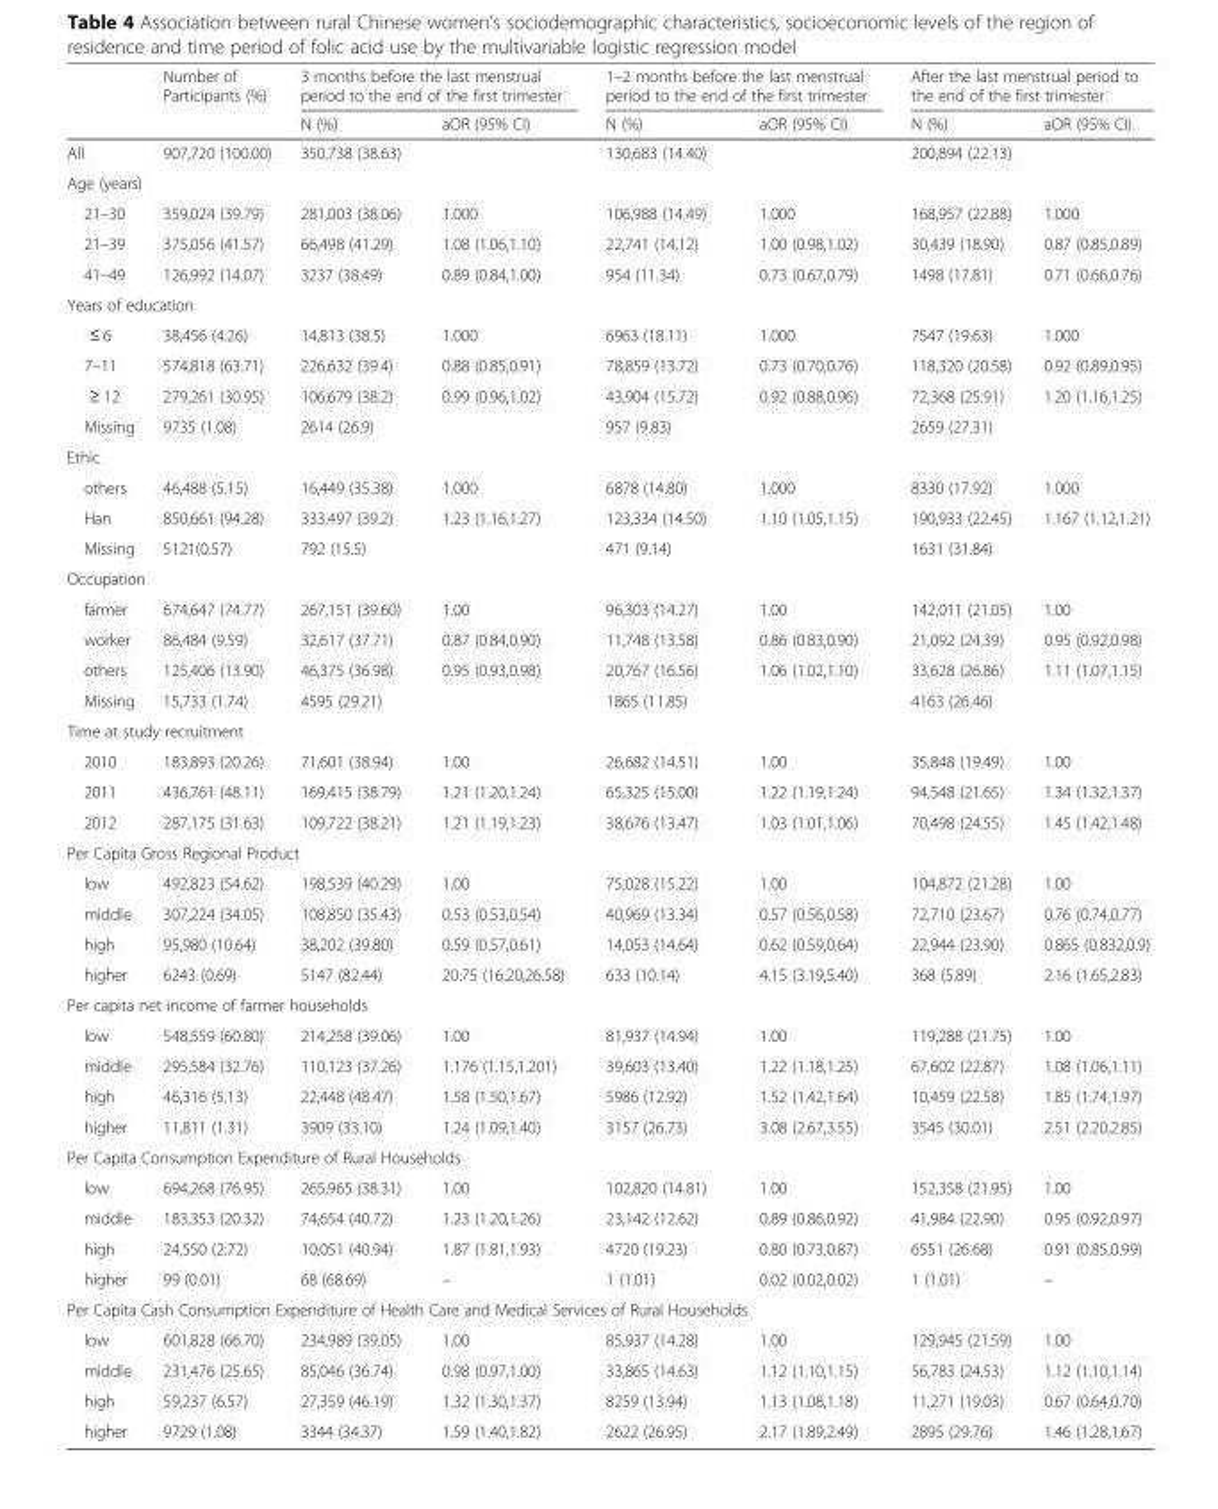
<table><thead><tr><td rowspan="2"></td><td rowspan="2">Number of Participants (%)</td><td colspan="2">3 months before the last menstrual period to the end of the first trimester</td><td colspan="2">1–2 months before the last menstrual period to the end of the first trimester</td><td colspan="2">After the last menstrual period to the end of the first trimester</td></tr><tr><td>N (%)</td><td>aOR (95% CI)</td><td>N (%)</td><td>aOR (95% CI)</td><td>N (%)</td><td>aOR (95% CI)</td></tr></thead><tbody><tr><td>All</td><td>907,720 (100.00)</td><td>350,738 (38.63)</td><td></td><td>130,683 (14.40)</td><td></td><td>200,894 (22.13)</td><td></td></tr><tr><td colspan="8">Age (years)</td></tr><tr><td>21–30</td><td>359,024 (39.79)</td><td>281,003 (38.06)</td><td>1.000</td><td>106,988 (14.49)</td><td>1.000</td><td>168,957 (22.88)</td><td>1.000</td></tr><tr><td>21–39</td><td>375,056 (41.57)</td><td>66,498 (41.29)</td><td>1.08 (1.06,1.10)</td><td>22,741 (14.12)</td><td>1.00 (0.98,1.02)</td><td>30,439 (18.90)</td><td>0.87 (0.85,0.89)</td></tr><tr><td>41–49</td><td>126,992 (14.07)</td><td>3237 (38.49)</td><td>0.89 (0.84,1.00)</td><td>954 (11.34)</td><td>0.73 (0.67,0.79)</td><td>1498 (17.81)</td><td>0.71 (0.66,0.76)</td></tr><tr><td colspan="8">Years of education</td></tr><tr><td>≤ 6</td><td>38,456 (4.26)</td><td>14,813 (38.5)</td><td>1.000</td><td>6963 (18.11)</td><td>1.000</td><td>7547 (19.63)</td><td>1.000</td></tr><tr><td>7–11</td><td>574,818 (63.71)</td><td>226,632 (39.4)</td><td>0.88 (0.85,0.91)</td><td>78,859 (13.72)</td><td>0.73 (0.70,0.76)</td><td>118,320 (20.58)</td><td>0.92 (0.89,0.95)</td></tr><tr><td>≥ 12</td><td>279,261 (30.95)</td><td>106,679 (38.2)</td><td>0.99 (0.96,1.02)</td><td>43,904 (15.72)</td><td>0.92 (0.88,0.96)</td><td>72,368 (25.91)</td><td>1.20 (1.16,1.25)</td></tr><tr><td>Missing</td><td>9735 (1.08)</td><td>2614 (26.9)</td><td></td><td>957 (9.83)</td><td></td><td>2659 (27.31)</td><td></td></tr><tr><td colspan="8">Ethic</td></tr><tr><td>others</td><td>46,488 (5.15)</td><td>16,449 (35.38)</td><td>1.000</td><td>6878 (14.80)</td><td>1.000</td><td>8330 (17.92)</td><td>1.000</td></tr><tr><td>Han</td><td>850,661 (94.28)</td><td>333,497 (39.2)</td><td>1.23 (1.16,1.27)</td><td>123,334 (14.50)</td><td>1.10 (1.05,1.15)</td><td>190,933 (22.45)</td><td>1.167 (1.12,1.21)</td></tr><tr><td>Missing</td><td>5121(0.57)</td><td>792 (15.5)</td><td></td><td>471 (9.14)</td><td></td><td>1631 (31.84)</td><td></td></tr><tr><td colspan="8">Occupation</td></tr><tr><td>farmer</td><td>674,647 (74.77)</td><td>267,151 (39.60)</td><td>1.00</td><td>96,303 (14.27)</td><td>1.00</td><td>142,011 (21.05)</td><td>1.00</td></tr><tr><td>worker</td><td>86,484 (9.59)</td><td>32,617 (37.71)</td><td>0.87 (0.84,0.90)</td><td>11,748 (13.58)</td><td>0.86 (0.83,0.90)</td><td>21,092 (24.39)</td><td>0.95 (0.92,0.98)</td></tr><tr><td>others</td><td>125,406 (13.90)</td><td>46,375 (36.98)</td><td>0.95 (0.93,0.98)</td><td>20,767 (16.56)</td><td>1.06 (1.02,1.10)</td><td>33,628 (26.86)</td><td>1.11 (1.07,1.15)</td></tr><tr><td>Missing</td><td>15,733 (1.74)</td><td>4595 (29.21)</td><td></td><td>1865 (11.85)</td><td></td><td>4163 (26.46)</td><td></td></tr><tr><td colspan="8">Time at study recruitment</td></tr><tr><td>2010</td><td>183,893 (20.26)</td><td>71,601 (38.94)</td><td>1.00</td><td>26,682 (14.51)</td><td>1.00</td><td>35,848 (19.49)</td><td>1.00</td></tr><tr><td>2011</td><td>436,761 (48.11)</td><td>169,415 (38.79)</td><td>1.21 (1.20,1.24)</td><td>65,325 (15.00)</td><td>1.22 (1.19,1.24)</td><td>94,548 (21.65)</td><td>1.34 (1.32,1.37)</td></tr><tr><td>2012</td><td>287,175 (31.63)</td><td>109,722 (38.21)</td><td>1.21 (1.19,1.23)</td><td>38,676 (13.47)</td><td>1.03 (1.01,1.06)</td><td>70,498 (24.55)</td><td>1.45 (1.42,1.48)</td></tr><tr><td colspan="8">Per Capita Gross Regional Product</td></tr><tr><td>low</td><td>492,823 (54.62)</td><td>198,539 (40.29)</td><td>1.00</td><td>75,028 (15.22)</td><td>1.00</td><td>104,872 (21.28)</td><td>1.00</td></tr><tr><td>middle</td><td>307,224 (34.05)</td><td>108,850 (35.43)</td><td>0.53 (0.53,0.54)</td><td>40,969 (13.34)</td><td>0.57 (0.56,0.58)</td><td>72,710 (23.67)</td><td>0.76 (0.74,0.77)</td></tr><tr><td>high</td><td>95,980 (10.64)</td><td>38,202 (39.80)</td><td>0.59 (0.57,0.61)</td><td>14,053 (14.64)</td><td>0.62 (0.59,0.64)</td><td>22,944 (23.90)</td><td>0.865 (0.832,0.9)</td></tr><tr><td>higher</td><td>6243 (0.69)</td><td>5147 (82.44)</td><td>20.75 (16.20,26.58)</td><td>633 (10.14)</td><td>4.15 (3.19,5.40)</td><td>368 (5.89)</td><td>2.16 (1.65,2.83)</td></tr><tr><td colspan="8">Per capita net income of farmer households</td></tr><tr><td>low</td><td>548,559 (60.80)</td><td>214,258 (39.06)</td><td>1.00</td><td>81,937 (14.94)</td><td>1.00</td><td>119,288 (21.75)</td><td>1.00</td></tr><tr><td>middle</td><td>295,584 (32.76)</td><td>110,123 (37.26)</td><td>1.176 (1.15,1.201)</td><td>39,603 (13.40)</td><td>1.22 (1.18,1.25)</td><td>67,602 (22.87)</td><td>1.08 (1.06,1.11)</td></tr><tr><td>high</td><td>46,316 (5.13)</td><td>22,448 (48.47)</td><td>1.58 (1.50,1.67)</td><td>5986 (12.92)</td><td>1.52 (1.42,1.64)</td><td>10,459 (22.58)</td><td>1.85 (1.74,1.97)</td></tr><tr><td>higher</td><td>11,811 (1.31)</td><td>3909 (33.10)</td><td>1.24 (1.09,1.40)</td><td>3157 (26.73)</td><td>3.08 (2.67,3.55)</td><td>3545 (30.01)</td><td>2.51 (2.20,2.85)</td></tr><tr><td colspan="8">Per Capita Consumption Expenditure of Rural Households</td></tr><tr><td>low</td><td>694,268 (76.95)</td><td>265,965 (38.31)</td><td>1.00</td><td>102,820 (14.81)</td><td>1.00</td><td>152,358 (21.95)</td><td>1.00</td></tr><tr><td>middle</td><td>183,353 (20.32)</td><td>74,654 (40.72)</td><td>1.23 (1.20,1.26)</td><td>23,142 (12.62)</td><td>0.89 (0.86,0.92)</td><td>41,984 (22.90)</td><td>0.95 (0.92,0.97)</td></tr><tr><td>high</td><td>24,550 (2.72)</td><td>10,051 (40.94)</td><td>1.87 (1.81,1.93)</td><td>4720 (19.23)</td><td>0.80 (0.73,0.87)</td><td>6551 (26.68)</td><td>0.91 (0.85,0.99)</td></tr><tr><td>higher</td><td>99 (0.01)</td><td>68 (68.69)</td><td>–</td><td>1 (1.01)</td><td>0.02 (0.02,0.02)</td><td>1 (1.01)</td><td>–</td></tr><tr><td colspan="8">Per Capita Cash Consumption Expenditure of Health Care and Medical Services of Rural Households</td></tr><tr><td>low</td><td>601,828 (66.70)</td><td>234,989 (39.05)</td><td>1.00</td><td>85,937 (14.28)</td><td>1.00</td><td>129,945 (21.59)</td><td>1.00</td></tr><tr><td>middle</td><td>231,476 (25.65)</td><td>85,046 (36.74)</td><td>0.98 (0.97,1.00)</td><td>33,865 (14.63)</td><td>1.12 (1.10,1.15)</td><td>56,783 (24.53)</td><td>1.12 (1.10,1.14)</td></tr><tr><td>high</td><td>59,237 (6.57)</td><td>27,359 (46.19)</td><td>1.32 (1.30,1.37)</td><td>8259 (13.94)</td><td>1.13 (1.08,1.18)</td><td>11,271 (19.03)</td><td>0.67 (0.64,0.70)</td></tr><tr><td>higher</td><td>9729 (1.08)</td><td>3344 (34.37)</td><td>1.59 (1.40,1.82)</td><td>2622 (26.95)</td><td>2.17 (1.89,2.49)</td><td>2895 (29.76)</td><td>1.46 (1.28,1.67)</td></tr></tbody></table>